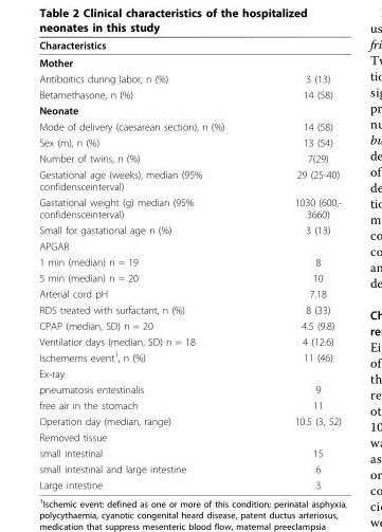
<table><thead><tr><td>Characteristics</td><td></td></tr></thead><tbody><tr><td colspan="2">Mother</td></tr><tr><td>Antiboitics during labor, n (%)</td><td>3 (13)</td></tr><tr><td>Betamethasone, n (%)</td><td>14 (58)</td></tr><tr><td colspan="2">Neonate</td></tr><tr><td>Mode of delivery (caesarean section), n (%)</td><td>14 (58)</td></tr><tr><td>Sex (m), n (%)</td><td>13 (54)</td></tr><tr><td>Number of twins, n (%)</td><td>7(29)</td></tr><tr><td>Gestational age (weeks), median (95% confidensceinterval)</td><td>29 (25-40)</td></tr><tr><td>Gastational weight (g) median (95% confidensceinterval)</td><td>1030 (600,- 3660)</td></tr><tr><td>Small for gastational age n (%)</td><td>3 (13)</td></tr><tr><td colspan="2">APGAR</td></tr><tr><td>1 min (median) n = 19</td><td>8</td></tr><tr><td>5 min (median) n = 20</td><td>10</td></tr><tr><td>Arterial cord pH</td><td>7.18</td></tr><tr><td>RDS treated with surfactant, n (%)</td><td>8 (33)</td></tr><tr><td>CPAP (median, SD) n = 20</td><td>4.5 (9.8)</td></tr><tr><td>Ventilatior days (median, SD) n = 18</td><td>4 (12.6)</td></tr><tr><td>Ischemems event<sup>1</sup>, n (%)</td><td>11 (46)</td></tr><tr><td colspan="2">Ex-ray</td></tr><tr><td>pneumatosis entestinalis</td><td>9</td></tr><tr><td>free air in the stomach</td><td>11</td></tr><tr><td>Operation day (median, range)</td><td>10.5 (3, 52)</td></tr><tr><td colspan="2">Removed tissue</td></tr><tr><td>small intestinal</td><td>15</td></tr><tr><td>small intestinal and large intestine</td><td>6</td></tr><tr><td>Large intestine</td><td>3</td></tr></tbody></table>